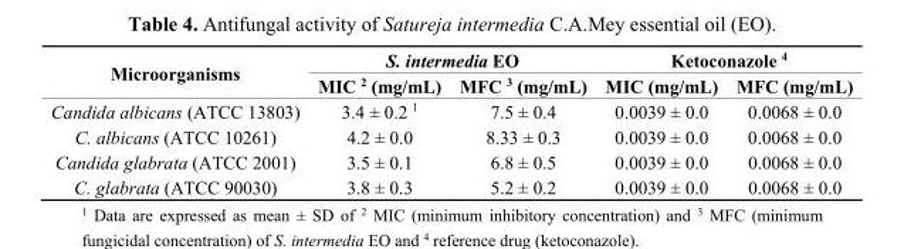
<table><thead><tr><td rowspan="2">Microorganisms</td><td colspan="2">S. intermedia EO</td><td colspan="2">Ketoconazole <sup>4</sup></td></tr><tr><td>MIC <sup>2</sup> (mg/mL)</td><td>MFC <sup>3</sup> (mg/mL)</td><td>MIC (mg/mL)</td><td>MFC (mg/mL)</td></tr></thead><tbody><tr><td>Candida albicans (ATCC 13803)</td><td>3.4 ± 0.2 <sup>1</sup></td><td>7.5 ± 0.4</td><td>0.0039 ± 0.0</td><td>0.0068 ± 0.0</td></tr><tr><td>C. albicans (ATCC 10261)</td><td>4.2 ± 0.0</td><td>8.33 ± 0.3</td><td>0.0039 ± 0.0</td><td>0.0068 ± 0.0</td></tr><tr><td>Candida glabrata (ATCC 2001)</td><td>3.5 ± 0.1</td><td>6.8 ± 0.5</td><td>0.0039 ± 0.0</td><td>0.0068 ± 0.0</td></tr><tr><td>C. glabrata (ATCC 90030)</td><td>3.8 ± 0.3</td><td>5.2 ± 0.2</td><td>0.0039 ± 0.0</td><td>0.0068 ± 0.0</td></tr></tbody></table>